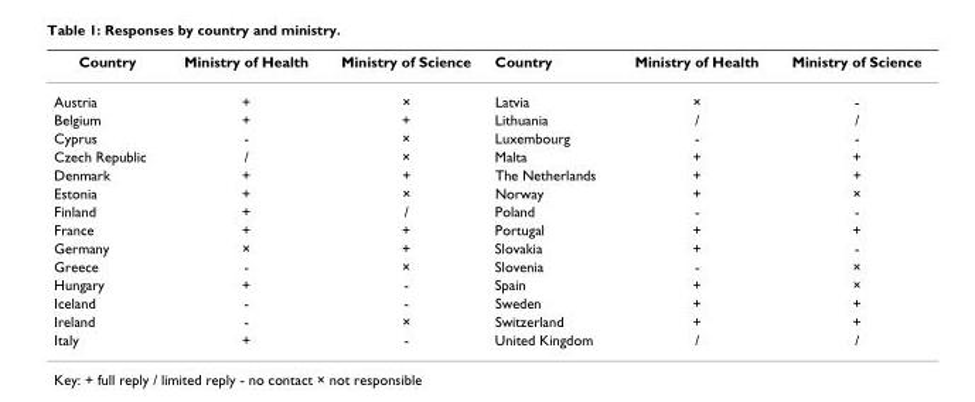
<table><thead><tr><td>Country</td><td>Ministry of Health</td><td>Ministry of Science</td><td>Country</td><td>Ministry of Health</td><td>Ministry of Science</td></tr></thead><tbody><tr><td>Austria</td><td>+</td><td>×</td><td>Latvia</td><td>×</td><td>-</td></tr><tr><td>Belgium</td><td>+</td><td>+</td><td>Lithuania</td><td>/</td><td>/</td></tr><tr><td>Cyprus</td><td>-</td><td>×</td><td>Luxembourg</td><td>-</td><td>-</td></tr><tr><td>Czech Republic</td><td>/</td><td>×</td><td>Malta</td><td>+</td><td>+</td></tr><tr><td>Denmark</td><td>+</td><td>+</td><td>The Netherlands</td><td>+</td><td>+</td></tr><tr><td>Estonia</td><td>+</td><td>×</td><td>Norway</td><td>+</td><td>×</td></tr><tr><td>Finland</td><td>+</td><td>/</td><td>Poland</td><td>-</td><td>-</td></tr><tr><td>France</td><td>+</td><td>+</td><td>Portugal</td><td>+</td><td>+</td></tr><tr><td>Germany</td><td>×</td><td>+</td><td>Slovakia</td><td>+</td><td>-</td></tr><tr><td>Greece</td><td>-</td><td>×</td><td>Slovenia</td><td>-</td><td>×</td></tr><tr><td>Hungary</td><td>+</td><td>-</td><td>Spain</td><td>+</td><td>×</td></tr><tr><td>Iceland</td><td>-</td><td>-</td><td>Sweden</td><td>+</td><td>+</td></tr><tr><td>Ireland</td><td>-</td><td>×</td><td>Switzerland</td><td>+</td><td>+</td></tr><tr><td>Italy</td><td>+</td><td>-</td><td>United Kingdom</td><td>/</td><td>/</td></tr></tbody></table>